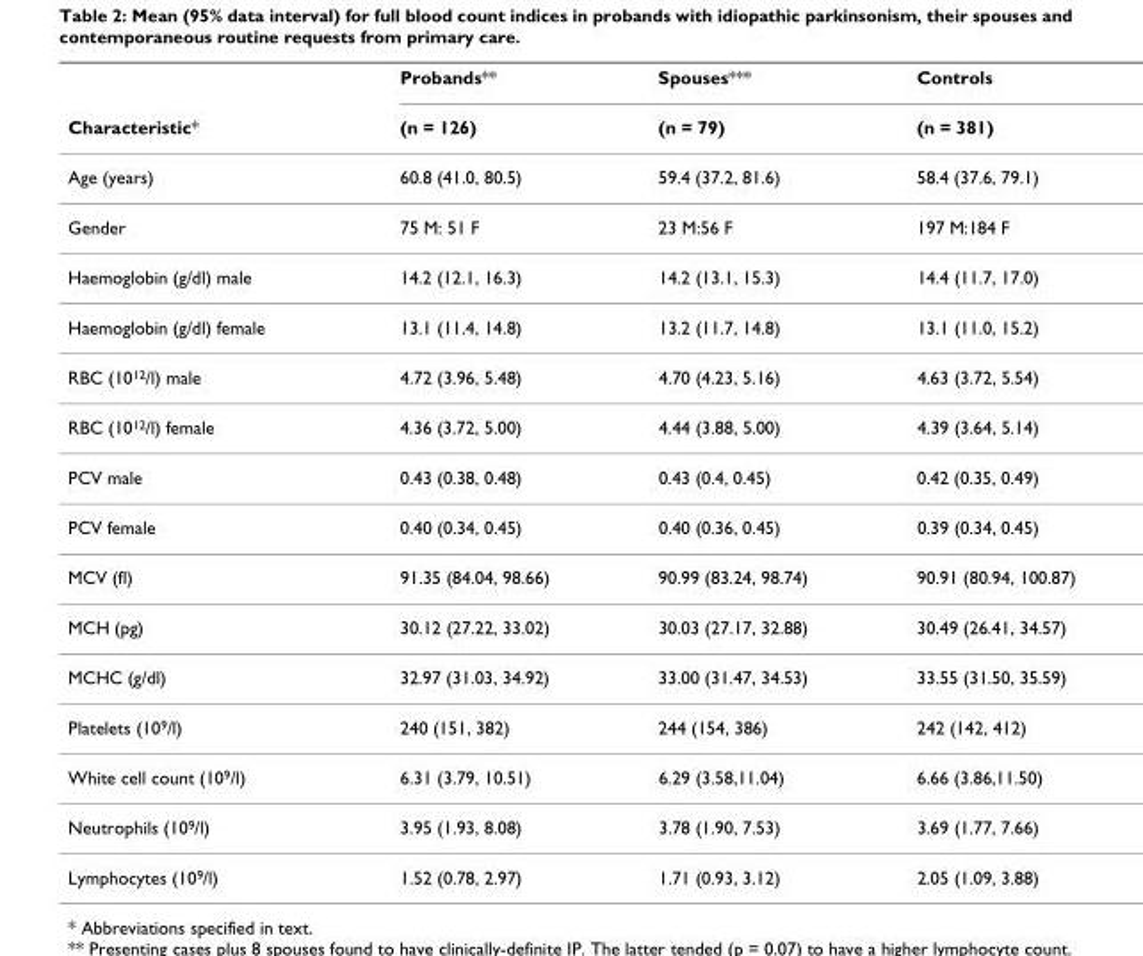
<table><thead><tr><td rowspan="2">Characteristic*</td><td rowspan="2">Probands** (n = 126)</td><td rowspan="2">Spouses*** (n = 79)</td><td rowspan="2">Controls (n = 381)</td></tr><tr></tr></thead><tbody><tr><td>Age (years)</td><td>60.8 (41.0, 80.5)</td><td>59.4 (37.2, 81.6)</td><td>58.4 (37.6, 79.1)</td></tr><tr><td>Gender</td><td>75 M: 51 F</td><td>23 M:56 F</td><td>197 M:184 F</td></tr><tr><td>Haemoglobin (g/dl) male</td><td>14.2 (12.1, 16.3)</td><td>14.2 (13.1, 15.3)</td><td>14.4 (11.7, 17.0)</td></tr><tr><td>Haemoglobin (g/dl) female</td><td>13.1 (11.4, 14.8)</td><td>13.2 (11.7, 14.8)</td><td>13.1 (11.0, 15.2)</td></tr><tr><td>RBC (10<sup>12</sup>/l) male</td><td>4.72 (3.96, 5.48)</td><td>4.70 (4.23, 5.16)</td><td>4.63 (3.72, 5.54)</td></tr><tr><td>RBC (10<sup>12</sup>/l) female</td><td>4.36 (3.72, 5.00)</td><td>4.44 (3.88, 5.00)</td><td>4.39 (3.64, 5.14)</td></tr><tr><td>PCV male</td><td>0.43 (0.38, 0.48)</td><td>0.43 (0.4, 0.45)</td><td>0.42 (0.35, 0.49)</td></tr><tr><td>PCV female</td><td>0.40 (0.34, 0.45)</td><td>0.40 (0.36, 0.45)</td><td>0.39 (0.34, 0.45)</td></tr><tr><td>MCV (fl)</td><td>91.35 (84.04, 98.66)</td><td>90.99 (83.24, 98.74)</td><td>90.91 (80.94, 100.87)</td></tr><tr><td>MCH (pg)</td><td>30.12 (27.22, 33.02)</td><td>30.03 (27.17, 32.88)</td><td>30.49 (26.41, 34.57)</td></tr><tr><td>MCHC (g/dl)</td><td>32.97 (31.03, 34.92)</td><td>33.00 (31.47, 34.53)</td><td>33.55 (31.50, 35.59)</td></tr><tr><td>Platelets (10<sup>9</sup>/l)</td><td>240 (151, 382)</td><td>244 (154, 386)</td><td>242 (142, 412)</td></tr><tr><td>White cell count (10<sup>9</sup>/l)</td><td>6.31 (3.79, 10.51)</td><td>6.29 (3.58,11.04)</td><td>6.66 (3.86,11.50)</td></tr><tr><td>Neutrophils (10<sup>9</sup>/l)</td><td>3.95 (1.93, 8.08)</td><td>3.78 (1.90, 7.53)</td><td>3.69 (1.77, 7.66)</td></tr><tr><td>Lymphocytes (10<sup>9</sup>/l)</td><td>1.52 (0.78, 2.97)</td><td>1.71 (0.93, 3.12)</td><td>2.05 (1.09, 3.88)</td></tr></tbody></table>